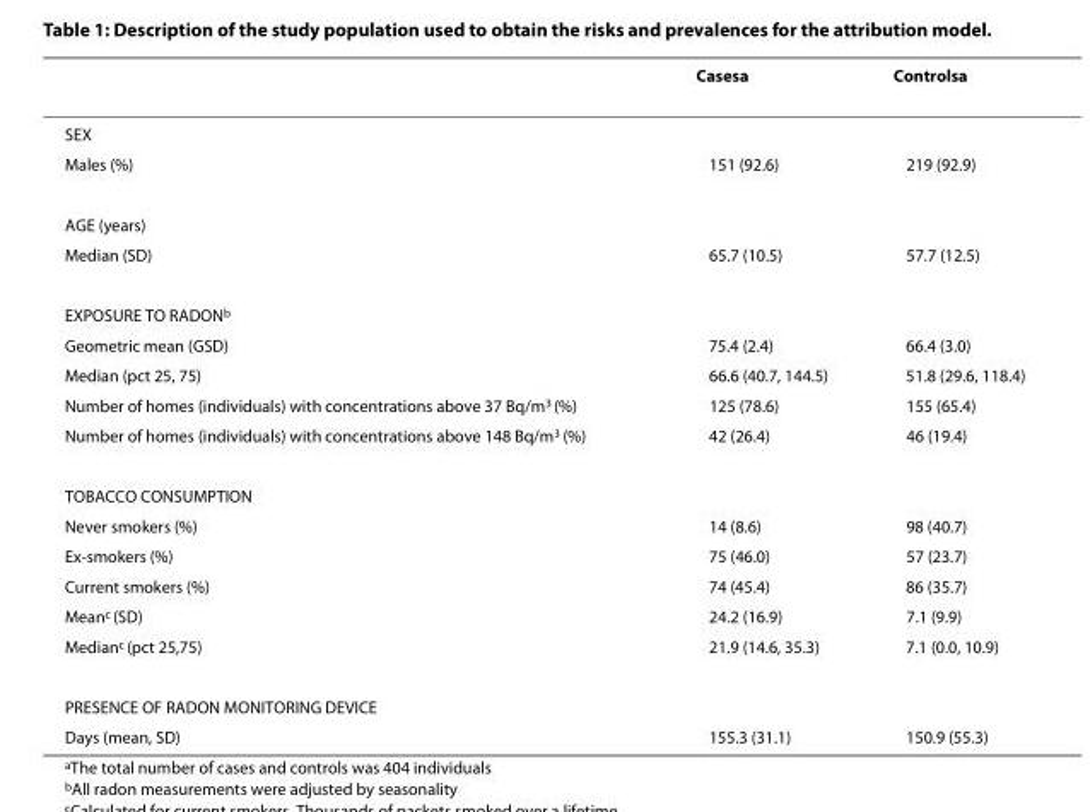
<table><thead><tr><td></td><td>Cases<sup>a</sup></td><td>Controls<sup>a</sup></td></tr></thead><tbody><tr><td colspan="3">SEX</td></tr><tr><td>Males (%)</td><td>151 (92.6)</td><td>219 (92.9)</td></tr><tr><td colspan="3">AGE (years)</td></tr><tr><td>Median (SD)</td><td>65.7 (10.5)</td><td>57.7 (12.5)</td></tr><tr><td colspan="3">EXPOSURE TO RADON<sup>b</sup></td></tr><tr><td>Geometric mean (GSD)</td><td>75.4 (2.4)</td><td>66.4 (3.0)</td></tr><tr><td>Median (pct 25, 75)</td><td>66.6 (40.7, 144.5)</td><td>51.8 (29.6, 118.4)</td></tr><tr><td>Number of homes (individuals) with concentrations above 37 Bq/m<sup>3</sup> (%)</td><td>125 (78.6)</td><td>155 (65.4)</td></tr><tr><td>Number of homes (individuals) with concentrations above 148 Bq/m<sup>3</sup> (%)</td><td>42 (26.4)</td><td>46 (19.4)</td></tr><tr><td colspan="3">TOBACCO CONSUMPTION</td></tr><tr><td>Never smokers (%)</td><td>14 (8.6)</td><td>98 (40.7)</td></tr><tr><td>Ex-smokers (%)</td><td>75 (46.0)</td><td>57 (23.7)</td></tr><tr><td>Current smokers (%)</td><td>74 (45.4)</td><td>86 (35.7)</td></tr><tr><td>Mean<sup>c</sup> (SD)</td><td>24.2 (16.9)</td><td>7.1 (9.9)</td></tr><tr><td>Median<sup>c</sup> (pct 25,75)</td><td>21.9 (14.6, 35.3)</td><td>7.1 (0.0, 10.9)</td></tr><tr><td colspan="3">PRESENCE OF RADON MONITORING DEVICE</td></tr><tr><td>Days (mean, SD)</td><td>155.3 (31.1)</td><td>150.9 (55.3)</td></tr></tbody></table>